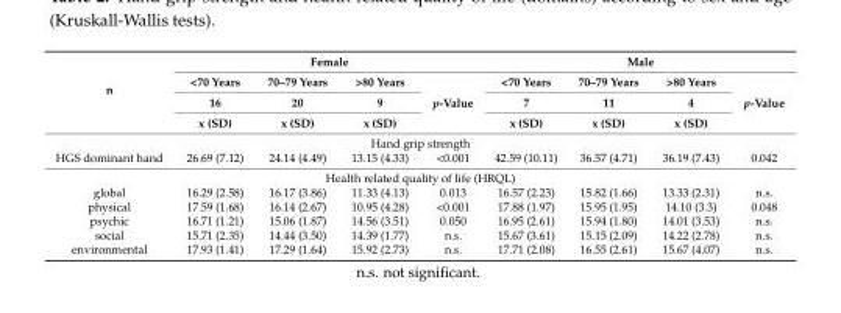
<table><thead><tr><td rowspan="4">n</td><td colspan="4">Female</td><td colspan="4">Male</td></tr><tr><td rowspan="3">&lt;70 Years 16 x (SD)</td><td rowspan="3">70–79 Years 20 x (SD)</td><td rowspan="3">&gt;80 Years 9 x (SD)</td><td rowspan="3">p-Value</td><td rowspan="3">&lt;70 Years 7 x (SD)</td><td rowspan="3">70–79 Years 11 x (SD)</td><td rowspan="3">&gt;80 Years 4 x (SD)</td><td rowspan="3">p-Value</td></tr><tr></tr><tr></tr></thead><tbody><tr><td colspan="9">Hand grip strength</td></tr><tr><td>HGS dominant hand</td><td>26.69 (7.12)</td><td>24.14 (4.49)</td><td>13.15 (4.33)</td><td>&lt;0.001</td><td>42.59 (10.11)</td><td>36.57 (4.71)</td><td>36.19 (7.43)</td><td>0.042</td></tr><tr><td colspan="9">Health related quality of life (HRQL)</td></tr><tr><td>global</td><td>16.29 (2.58)</td><td>16.17 (3.86)</td><td>11.33 (4.13)</td><td>0.013</td><td>16.57 (2.23)</td><td>15.82 (1.66)</td><td>13.33 (2.31)</td><td>n.s.</td></tr><tr><td>physical</td><td>17.59 (1.68)</td><td>16.14 (2.67)</td><td>10.95 (4.28)</td><td>&lt;0.001</td><td>17.88 (1.97)</td><td>15.95 (1.95)</td><td>14.10 (3.3)</td><td>0.048</td></tr><tr><td>psychic</td><td>16.71 (1.21)</td><td>15.06 (1.87)</td><td>14.56 (3.51)</td><td>0.050</td><td>16.95 (2.61)</td><td>15.94 (1.80)</td><td>14.01 (3.53)</td><td>n.s.</td></tr><tr><td>social</td><td>15.71 (2.35)</td><td>14.44 (3.50)</td><td>14.39 (1.77)</td><td>n.s.</td><td>15.67 (3.61)</td><td>15.15 (2.09)</td><td>14.22 (2.78)</td><td>n.s.</td></tr><tr><td>environmental</td><td>17.93 (1.41)</td><td>17.29 (1.64)</td><td>15.92 (2.73)</td><td>n.s.</td><td>17.71 (2.08)</td><td>16.55 (2.61)</td><td>15.67 (4.07)</td><td>n.s.</td></tr></tbody></table>